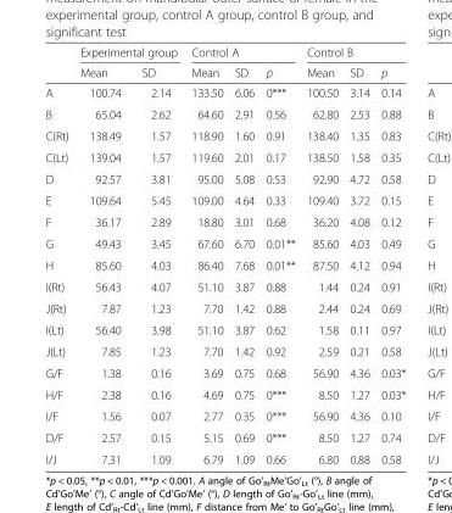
<table><thead><tr><td rowspan="2"></td><td colspan="2">Experimental group</td><td colspan="3">Control A</td><td colspan="3">Control B</td></tr><tr><td>Mean</td><td>SD</td><td>Mean</td><td>SD</td><td>p</td><td>Mean</td><td>SD</td><td>p</td></tr></thead><tbody><tr><td>A</td><td>100.74</td><td>2.14</td><td>133.50</td><td>6.06</td><td>0***</td><td>100.50</td><td>3.14</td><td>0.14</td></tr><tr><td>B</td><td>65.04</td><td>2.62</td><td>64.60</td><td>2.91</td><td>0.56</td><td>62.80</td><td>2.53</td><td>0.88</td></tr><tr><td>C(Rt)</td><td>138.49</td><td>1.57</td><td>118.90</td><td>1.60</td><td>0.91</td><td>138.40</td><td>1.35</td><td>0.83</td></tr><tr><td>C(Lt)</td><td>139.04</td><td>1.57</td><td>119.60</td><td>2.01</td><td>0.17</td><td>138.50</td><td>1.58</td><td>0.35</td></tr><tr><td>D</td><td>92.57</td><td>3.81</td><td>95.00</td><td>5.08</td><td>0.53</td><td>92.90</td><td>4.72</td><td>0.58</td></tr><tr><td>E</td><td>109.64</td><td>5.45</td><td>109.00</td><td>4.64</td><td>0.33</td><td>109.40</td><td>3.72</td><td>0.15</td></tr><tr><td>F</td><td>36.17</td><td>2.89</td><td>18.80</td><td>3.01</td><td>0.68</td><td>36.20</td><td>4.08</td><td>0.12</td></tr><tr><td>G</td><td>49.43</td><td>3.45</td><td>67.60</td><td>6.70</td><td>0.01**</td><td>85.60</td><td>4.03</td><td>0.49</td></tr><tr><td>H</td><td>85.60</td><td>4.03</td><td>86.40</td><td>7.68</td><td>0.01**</td><td>87.50</td><td>4.12</td><td>0.94</td></tr><tr><td>I(Rt)</td><td>56.43</td><td>4.07</td><td>51.10</td><td>3.87</td><td>0.88</td><td>1.44</td><td>0.24</td><td>0.91</td></tr><tr><td>J(Rt)</td><td>7.87</td><td>1.23</td><td>7.70</td><td>1.42</td><td>0.88</td><td>2.44</td><td>0.24</td><td>0.69</td></tr><tr><td>I(Lt)</td><td>56.40</td><td>3.98</td><td>51.10</td><td>3.87</td><td>0.62</td><td>1.58</td><td>0.11</td><td>0.97</td></tr><tr><td>J(Lt)</td><td>7.85</td><td>1.23</td><td>7.70</td><td>1.42</td><td>0.92</td><td>2.59</td><td>0.21</td><td>0.58</td></tr><tr><td>G/F</td><td>1.38</td><td>0.16</td><td>3.69</td><td>0.75</td><td>0.68</td><td>56.90</td><td>4.36</td><td>0.03*</td></tr><tr><td>H/F</td><td>2.38</td><td>0.16</td><td>4.69</td><td>0.75</td><td>0***</td><td>8.50</td><td>1.27</td><td>0.03*</td></tr><tr><td>I/F</td><td>1.56</td><td>0.07</td><td>2.77</td><td>0.35</td><td>0***</td><td>56.90</td><td>4.36</td><td>0.10</td></tr><tr><td>D/F</td><td>2.57</td><td>0.15</td><td>5.15</td><td>0.69</td><td>0***</td><td>8.50</td><td>1.27</td><td>0.74</td></tr><tr><td>I/J</td><td>7.31</td><td>1.09</td><td>6.79</td><td>1.09</td><td>0.66</td><td>6.80</td><td>0.88</td><td>0.58</td></tr></tbody></table>